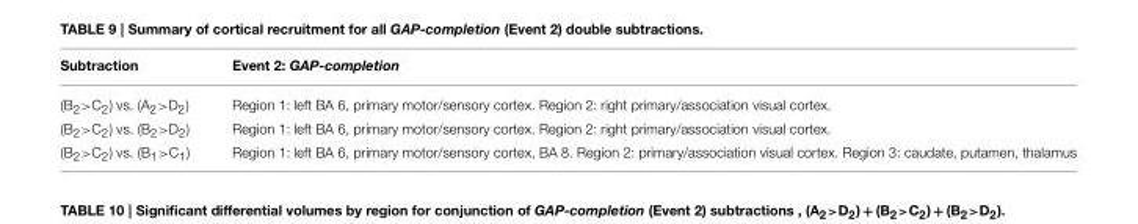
<table><thead><tr><td>Subtraction</td><td>Event 2: GAP-completion</td></tr></thead><tbody><tr><td>(B<sub>2</sub>&gt;C<sub>2</sub>) vs. (A<sub>2</sub>&gt;D<sub>2</sub>)</td><td>Region 1: left BA 6, primary motor/sensory cortex. Region 2: right primary/association visual cortex.</td></tr><tr><td>(B<sub>2</sub>&gt;C<sub>2</sub>) vs. (B<sub>2</sub>&gt;D<sub>2</sub>)</td><td>Region 1: left BA 6, primary motor/sensory cortex. Region 2: right primary/association visual cortex.</td></tr><tr><td>(B<sub>2</sub>&gt;C<sub>2</sub>) vs. (B<sub>1</sub>&gt;C<sub>1</sub>)</td><td>Region 1: left BA 6, primary motor/sensory cortex, BA 8. Region 2: primary/association visual cortex. Region 3: caudate, putamen, thalamus</td></tr></tbody></table>